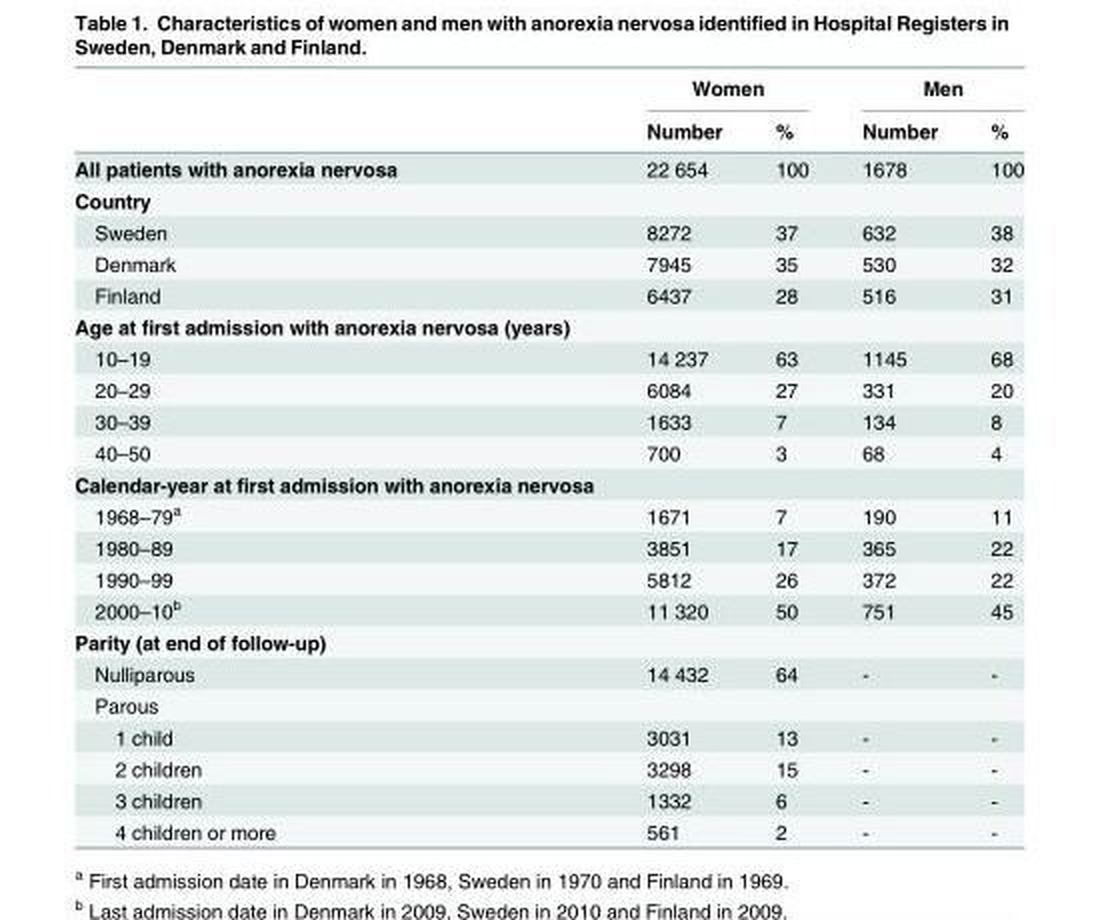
<table><thead><tr><td rowspan="2"></td><td colspan="2">Women</td><td colspan="2">Men</td></tr><tr><td>Number</td><td>%</td><td>Number</td><td>%</td></tr></thead><tbody><tr><td>All patients with anorexia nervosa</td><td>22 654</td><td>100</td><td>1678</td><td>100</td></tr><tr><td colspan="5">Country</td></tr><tr><td>Sweden</td><td>8272</td><td>37</td><td>632</td><td>38</td></tr><tr><td>Denmark</td><td>7945</td><td>35</td><td>530</td><td>32</td></tr><tr><td>Finland</td><td>6437</td><td>28</td><td>516</td><td>31</td></tr><tr><td colspan="5">Age at first admission with anorexia nervosa (years)</td></tr><tr><td>10–19</td><td>14 237</td><td>63</td><td>1145</td><td>68</td></tr><tr><td>20–29</td><td>6084</td><td>27</td><td>331</td><td>20</td></tr><tr><td>30–39</td><td>1633</td><td>7</td><td>134</td><td>8</td></tr><tr><td>40–50</td><td>700</td><td>3</td><td>68</td><td>4</td></tr><tr><td colspan="5">Calendar-year at first admission with anorexia nervosa</td></tr><tr><td>1968–79<sup>a</sup></td><td>1671</td><td>7</td><td>190</td><td>11</td></tr><tr><td>1980–89</td><td>3851</td><td>17</td><td>365</td><td>22</td></tr><tr><td>1990–99</td><td>5812</td><td>26</td><td>372</td><td>22</td></tr><tr><td>2000–10<sup>b</sup></td><td>11 320</td><td>50</td><td>751</td><td>45</td></tr><tr><td colspan="5">Parity (at end of follow-up)</td></tr><tr><td>Nulliparous</td><td>14 432</td><td>64</td><td>-</td><td>-</td></tr><tr><td colspan="5">Parous</td></tr><tr><td>1 child</td><td>3031</td><td>13</td><td>-</td><td>-</td></tr><tr><td>2 children</td><td>3298</td><td>15</td><td>-</td><td>-</td></tr><tr><td>3 children</td><td>1332</td><td>6</td><td>-</td><td>-</td></tr><tr><td>4 children or more</td><td>561</td><td>2</td><td>-</td><td>-</td></tr></tbody></table>